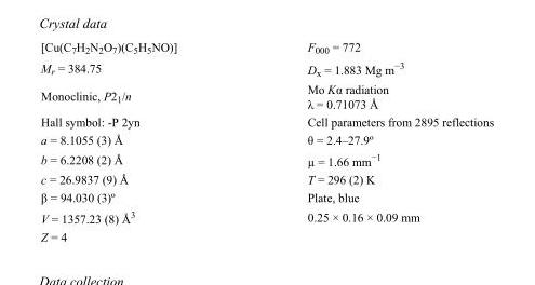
<table><tbody><tr><td>[Cu(C<sub>7</sub>H<sub>2</sub>N<sub>2</sub>O<sub>7</sub>)(C<sub>5</sub>H<sub>5</sub>NO)]</td><td>F<sub>000</sub> = 772</td></tr><tr><td>M<sub>r</sub> = 384.75</td><td>D<sub>x</sub> = 1.883 Mg m<sup>−3</sup></td></tr><tr><td>Monoclinic, P2<sub>1</sub>/n</td><td>Mo Kα radiation λ = 0.71073 Å</td></tr><tr><td>Hall symbol: -P 2yn</td><td>Cell parameters from 2895 reflections</td></tr><tr><td>a = 8.1055 (3) Å</td><td>θ = 2.4–27.9º</td></tr><tr><td>b = 6.2208 (2) Å</td><td>µ = 1.66 mm<sup>−1</sup></td></tr><tr><td>c = 26.9837 (9) Å</td><td>T = 296 (2) K</td></tr><tr><td>β = 94.030 (3)º</td><td>Plate, blue</td></tr><tr><td>V = 1357.23 (8) Å<sup>3</sup></td><td>0.25 × 0.16 × 0.09 mm</td></tr><tr><td>Z = 4</td><td></td></tr></tbody></table>